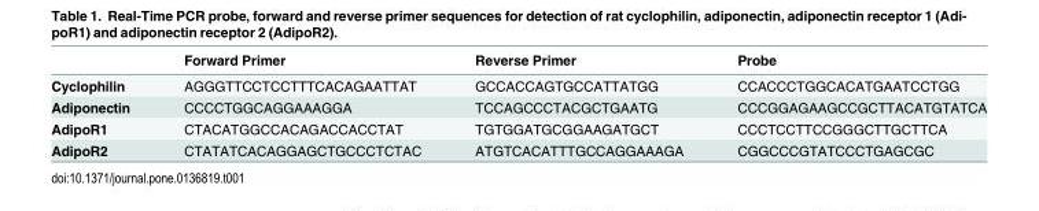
<table><thead><tr><td></td><td>Forward Primer</td><td>Reverse Primer</td><td>Probe</td></tr></thead><tbody><tr><td>Cyclophilin</td><td>AGGGTTCCTCCTTTCACAGAATTAT</td><td>GCCACCAGTGCCATTATGG</td><td>CCACCCTGGCACATGAATCCTGG</td></tr><tr><td>Adiponectin</td><td>CCCCTGGCAGGAAAGGA</td><td>TCCAGCCCTACGCTGAATG</td><td>CCCGGAGAAGCCGCTTACATGTATCA</td></tr><tr><td>AdipoR1</td><td>CTACATGGCCACAGACCACCTAT</td><td>TGTGGATGCGGAAGATGCT</td><td>CCCTCCTTCCGGGCTTGCTTCA</td></tr><tr><td>AdipoR2</td><td>CTATATCACAGGAGCTGCCCTCTAC</td><td>ATGTCACATTTGCCAGGAAAGA</td><td>CGGCCCGTATCCCTGAGCGC</td></tr></tbody></table>